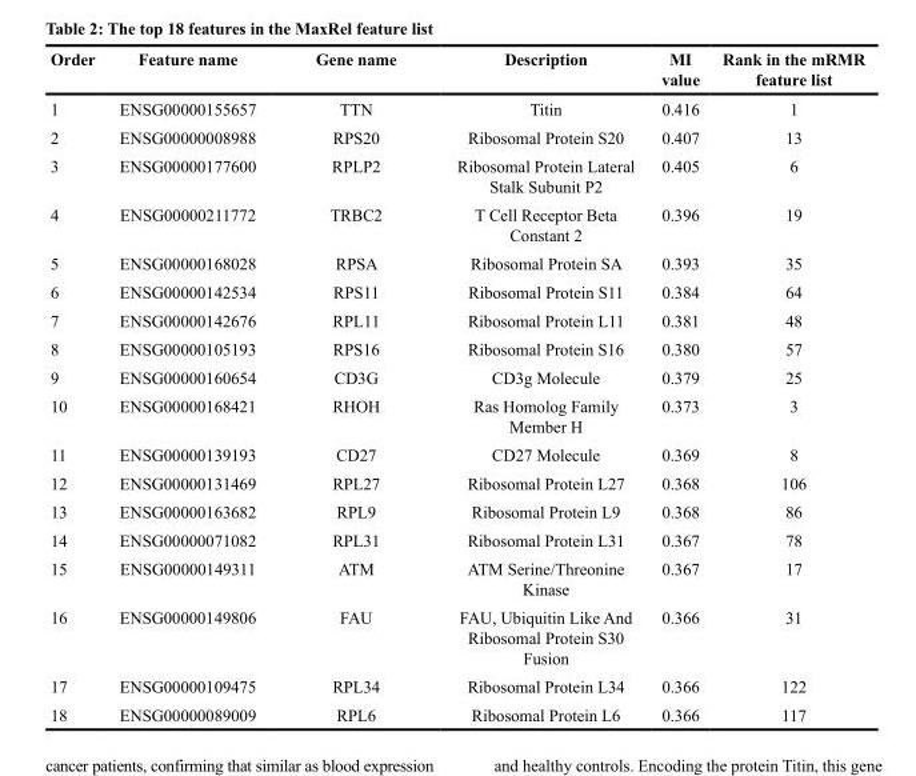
<table><thead><tr><td>Order</td><td>Feature name</td><td>Gene name</td><td>Description</td><td>MI value</td><td>Rank in the mRMR feature list</td></tr></thead><tbody><tr><td>1</td><td>ENSG00000155657</td><td>TTN</td><td>Titin</td><td>0.416</td><td>1</td></tr><tr><td>2</td><td>ENSG00000008988</td><td>RPS20</td><td>Ribosomal Protein S20</td><td>0.407</td><td>13</td></tr><tr><td>3</td><td>ENSG00000177600</td><td>RPLP2</td><td>Ribosomal Protein Lateral Stalk Subunit P2</td><td>0.405</td><td>6</td></tr><tr><td>4</td><td>ENSG00000211772</td><td>TRBC2</td><td>T Cell Receptor Beta Constant 2</td><td>0.396</td><td>19</td></tr><tr><td>5</td><td>ENSG00000168028</td><td>RPSA</td><td>Ribosomal Protein SA</td><td>0.393</td><td>35</td></tr><tr><td>6</td><td>ENSG00000142534</td><td>RPS11</td><td>Ribosomal Protein S11</td><td>0.384</td><td>64</td></tr><tr><td>7</td><td>ENSG00000142676</td><td>RPL11</td><td>Ribosomal Protein L11</td><td>0.381</td><td>48</td></tr><tr><td>8</td><td>ENSG00000105193</td><td>RPS16</td><td>Ribosomal Protein S16</td><td>0.380</td><td>57</td></tr><tr><td>9</td><td>ENSG00000160654</td><td>CD3G</td><td>CD3g Molecule</td><td>0.379</td><td>25</td></tr><tr><td>10</td><td>ENSG00000168421</td><td>RHOH</td><td>Ras Homolog Family Member H</td><td>0.373</td><td>3</td></tr><tr><td>11</td><td>ENSG00000139193</td><td>CD27</td><td>CD27 Molecule</td><td>0.369</td><td>8</td></tr><tr><td>12</td><td>ENSG00000131469</td><td>RPL27</td><td>Ribosomal Protein L27</td><td>0.368</td><td>106</td></tr><tr><td>13</td><td>ENSG00000163682</td><td>RPL9</td><td>Ribosomal Protein L9</td><td>0.368</td><td>86</td></tr><tr><td>14</td><td>ENSG00000071082</td><td>RPL31</td><td>Ribosomal Protein L31</td><td>0.367</td><td>78</td></tr><tr><td>15</td><td>ENSG00000149311</td><td>ATM</td><td>ATM Serine/Threonine Kinase</td><td>0.367</td><td>17</td></tr><tr><td>16</td><td>ENSG00000149806</td><td>FAU</td><td>FAU, Ubiquitin Like And Ribosomal Protein S30 Fusion</td><td>0.366</td><td>31</td></tr><tr><td>17</td><td>ENSG00000109475</td><td>RPL34</td><td>Ribosomal Protein L34</td><td>0.366</td><td>122</td></tr><tr><td>18</td><td>ENSG00000089009</td><td>RPL6</td><td>Ribosomal Protein L6</td><td>0.366</td><td>117</td></tr></tbody></table>